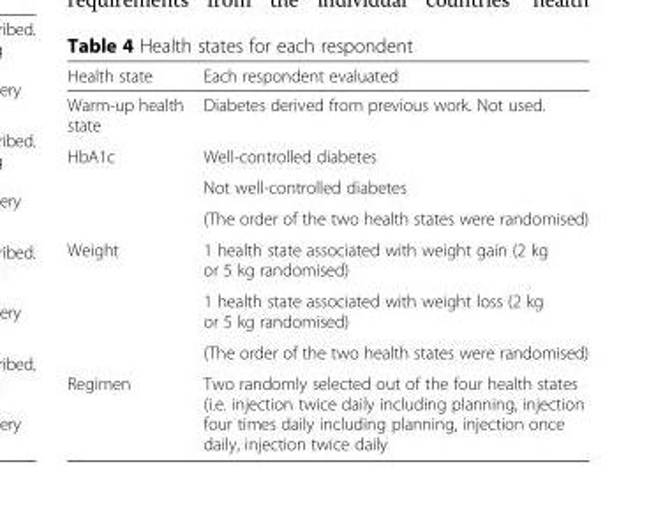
<table><thead><tr><td>Health state</td><td>Each respondent evaluated</td></tr></thead><tbody><tr><td>Warm-up health state</td><td>Diabetes derived from previous work. Not used.</td></tr><tr><td rowspan="3">HbA1c</td><td>Well-controlled diabetes</td></tr><tr><td>Not well-controlled diabetes</td></tr><tr><td>(The order of the two health states were randomised)</td></tr><tr><td rowspan="3">Weight</td><td>1 health state associated with weight gain (2 kg or 5 kg randomised)</td></tr><tr><td>1 health state associated with weight loss (2 kg or 5 kg randomised)</td></tr><tr><td>(The order of the two health states were randomised)</td></tr><tr><td>Regimen</td><td>Two randomly selected out of the four health states (i.e. injection twice daily including planning, injection four times daily including planning, injection once daily, injection twice daily</td></tr></tbody></table>